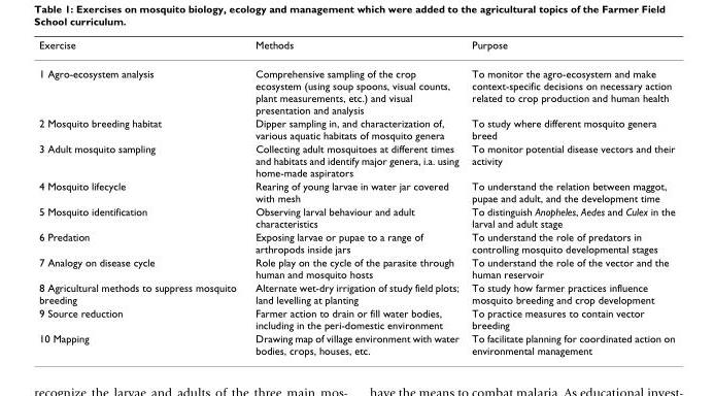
<table><thead><tr><td>Exercise</td><td>Methods</td><td>Purpose</td></tr></thead><tbody><tr><td>1 Agro-ecosystem analysis</td><td>Comprehensive sampling of the crop ecosystem (using soup spoons, visual counts, plant measurements, etc.) and visual presentation and analysis</td><td>To monitor the agro-ecosystem and make context-specific decisions on necessary action related to crop production and human health</td></tr><tr><td>2 Mosquito breeding habitat</td><td>Dipper sampling in, and characterization of, various aquatic habitats of mosquito genera</td><td>To study where different mosquito genera breed</td></tr><tr><td>3 Adult mosquito sampling</td><td>Collecting adult mosquitoes at different times and habitats and identify major genera, i.a. using home-made aspirators</td><td>To monitor potential disease vectors and their activity</td></tr><tr><td>4 Mosquito lifecycle</td><td>Rearing of young larvae in water jar covered with mesh</td><td>To understand the relation between maggot, pupae and adult, and the development time</td></tr><tr><td>5 Mosquito identification</td><td>Observing larval behaviour and adult characteristics</td><td>To distinguish Anopheles, Aedes and Culex in the larval and adult stage</td></tr><tr><td>6 Predation</td><td>Exposing larvae or pupae to a range of arthropods inside jars</td><td>To understand the role of predators in controlling mosquito developmental stages</td></tr><tr><td>7 Analogy on disease cycle</td><td>Role play on the cycle of the parasite through human and mosquito hosts</td><td>To understand the role of the vector and the human reservoir</td></tr><tr><td>8 Agricultural methods to suppress mosquito breeding</td><td>Alternate wet-dry irrigation of study field plots; land levelling at planting</td><td>To study how farmer practices influence mosquito breeding and crop development</td></tr><tr><td>9 Source reduction</td><td>Farmer action to drain or fill water bodies, including in the peri-domestic environment</td><td>To practice measures to contain vector breeding</td></tr><tr><td>10 Mapping</td><td>Drawing map of village environment with water bodies, crops, houses, etc.</td><td>To facilitate planning for coordinated action on environmental management</td></tr></tbody></table>